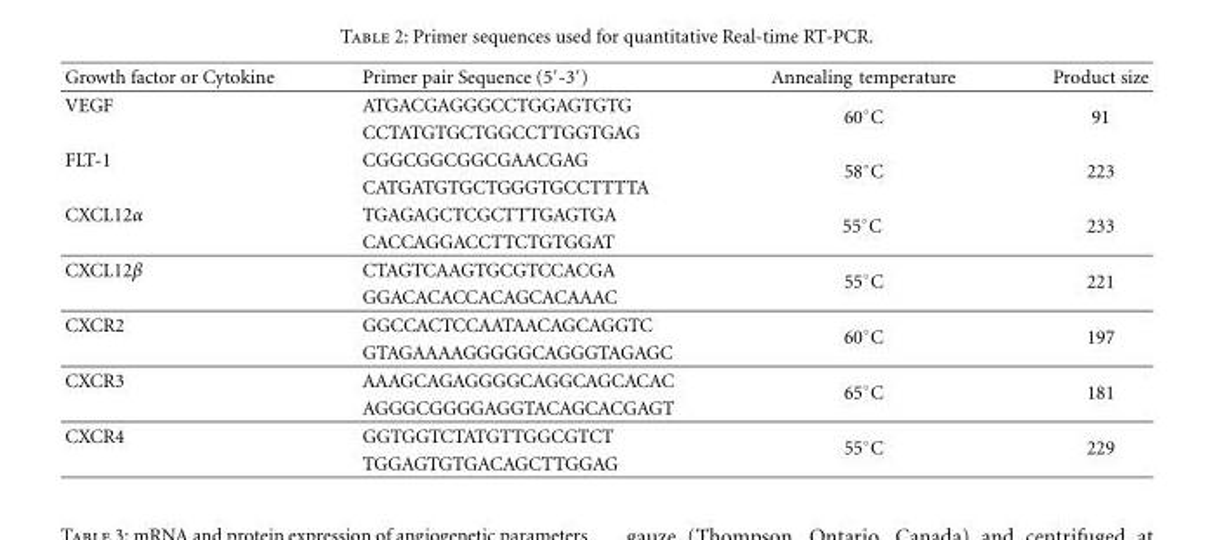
<table><thead><tr><td>Growth factor or Cytokine</td><td>Primer pair Sequence (5′-3′)</td><td>Annealing temperature</td><td>Product size</td></tr></thead><tbody><tr><td rowspan="2">VEGF</td><td>ATGACGAGGGCCTGGAGTGTG</td><td rowspan="2">60◦C</td><td rowspan="2">91</td></tr><tr><td>CCTATGTGCTGGCCTTGGTGAG</td></tr><tr><td rowspan="2">FLT-1</td><td>CGGCGGCGGCGAACGAG</td><td rowspan="2">58◦C</td><td rowspan="2">223</td></tr><tr><td>CATGATGTGCTGGGTGCCTTTTA</td></tr><tr><td rowspan="2">CXCL12α</td><td>TGAGAGCTCGCTTTGAGTGA</td><td rowspan="2">55◦C</td><td rowspan="2">233</td></tr><tr><td>CACCAGGACCTTCTGTGGAT</td></tr><tr><td rowspan="2">CXCL12β</td><td>CTAGTCAAGTGCGTCCACGA</td><td rowspan="2">55◦C</td><td rowspan="2">221</td></tr><tr><td>GGACACACCACAGCACAAAC</td></tr><tr><td rowspan="2">CXCR2</td><td>GGCCACTCCAATAACAGCAGGTC</td><td rowspan="2">60◦C</td><td rowspan="2">197</td></tr><tr><td>GTAGAAAAGGGGGCAGGGTAGAGC</td></tr><tr><td rowspan="2">CXCR3</td><td>AAAGCAGAGGGGCAGGCAGCACAC</td><td rowspan="2">65◦C</td><td rowspan="2">181</td></tr><tr><td>AGGGCGGGGAGGTACAGCACGAGT</td></tr><tr><td rowspan="2">CXCR4</td><td>GGTGGTCTATGTTGGCGTCT</td><td rowspan="2">55◦C</td><td rowspan="2">229</td></tr><tr><td>TGGAGTGTGACAGCTTGGAG</td></tr></tbody></table>